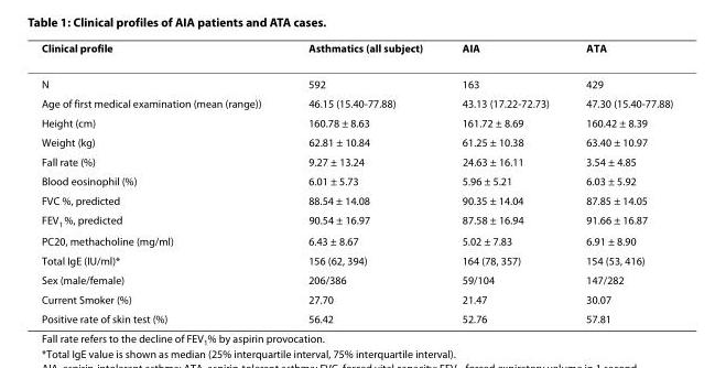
<table><thead><tr><td>Clinical profile</td><td>Asthmatics (all subject)</td><td>AIA</td><td>ATA</td></tr></thead><tbody><tr><td>N</td><td>592</td><td>163</td><td>429</td></tr><tr><td>Age of first medical examination (mean (range))</td><td>46.15 (15.40-77.88)</td><td>43.13 (17.22-72.73)</td><td>47.30 (15.40-77.88)</td></tr><tr><td>Height (cm)</td><td>160.78 ± 8.63</td><td>161.72 ± 8.69</td><td>160.42 ± 8.39</td></tr><tr><td>Weight (kg)</td><td>62.81 ± 10.84</td><td>61.25 ± 10.38</td><td>63.40 ± 10.97</td></tr><tr><td>Fall rate (%)</td><td>9.27 ± 13.24</td><td>24.63 ± 16.11</td><td>3.54 ± 4.85</td></tr><tr><td>Blood eosinophil (%)</td><td>6.01 ± 5.73</td><td>5.96 ± 5.21</td><td>6.03 ± 5.92</td></tr><tr><td>FVC %, predicted</td><td>88.54 ± 14.08</td><td>90.35 ± 14.04</td><td>87.85 ± 14.05</td></tr><tr><td>FEV<sub>1</sub> %, predicted</td><td>90.54 ± 16.97</td><td>87.58 ± 16.94</td><td>91.66 ± 16.87</td></tr><tr><td>PC20, methacholine (mg/ml)</td><td>6.43 ± 8.67</td><td>5.02 ± 7.83</td><td>6.91 ± 8.90</td></tr><tr><td>Total IgE (IU/ml)*</td><td>156 (62, 394)</td><td>164 (78, 357)</td><td>154 (53, 416)</td></tr><tr><td>Sex (male/female)</td><td>206/386</td><td>59/104</td><td>147/282</td></tr><tr><td>Current Smoker (%)</td><td>27.70</td><td>21.47</td><td>30.07</td></tr><tr><td>Positive rate of skin test (%)</td><td>56.42</td><td>52.76</td><td>57.81</td></tr></tbody></table>